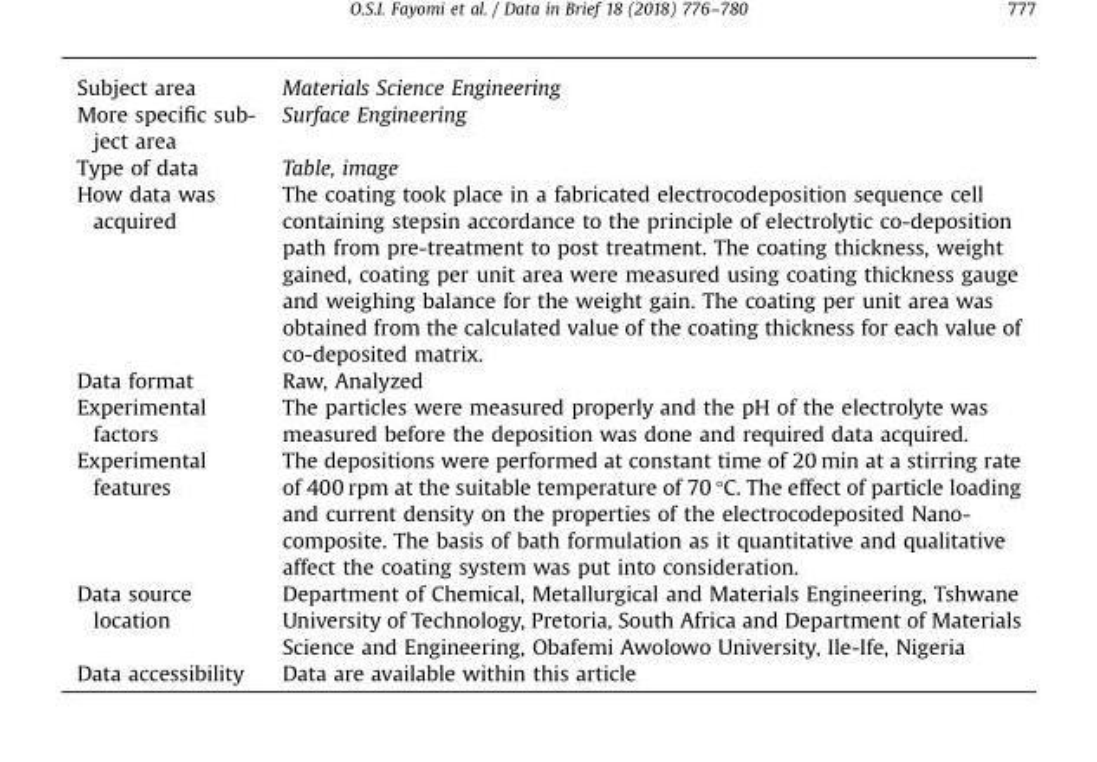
<table><tbody><tr><td>Subject area</td><td>Materials Science Engineering</td></tr><tr><td>More specific sub- ject area</td><td>Surface Engineering</td></tr><tr><td>Type of data</td><td>Table, image</td></tr><tr><td>How data was acquired</td><td>The coating took place in a fabricated electrocodeposition sequence cell containing stepsin accordance to the principle of electrolytic co-deposition path from pre-treatment to post treatment. The coating thickness, weight gained, coating per unit area were measured using coating thickness gauge and weighing balance for the weight gain. The coating per unit area was obtained from the calculated value of the coating thickness for each value of co-deposited matrix.</td></tr><tr><td>Data format</td><td>Raw, Analyzed</td></tr><tr><td>Experimental factors</td><td>The particles were measured properly and the pH of the electrolyte was measured before the deposition was done and required data acquired.</td></tr><tr><td>Experimental features</td><td>The depositions were performed at constant time of 20 min at a stirring rate of 400 rpm at the suitable temperature of 70 °C. The effect of particle loading and current density on the properties of the electrocodeposited Nano- composite. The basis of bath formulation as it quantitative and qualitative affect the coating system was put into consideration.</td></tr><tr><td>Data source location</td><td>Department of Chemical, Metallurgical and Materials Engineering, Tshwane University of Technology, Pretoria, South Africa and Department of Materials Science and Engineering, Obafemi Awolowo University, Ile-Ife, Nigeria</td></tr><tr><td>Data accessibility</td><td>Data are available within this article</td></tr></tbody></table>